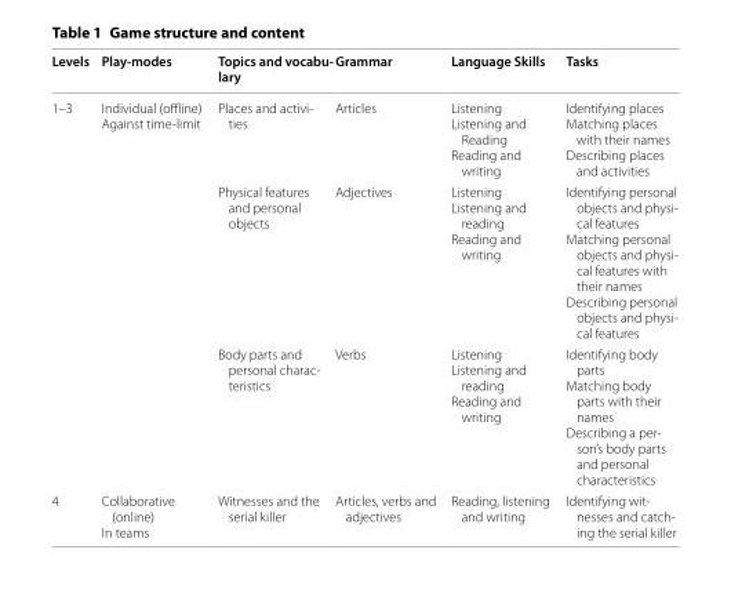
<table><thead><tr><td>Levels</td><td>Play-modes</td><td>Topics and vocabu- lary</td><td>Grammar</td><td>Language Skills</td><td>Tasks</td></tr></thead><tbody><tr><td rowspan="3">1–3</td><td>Individual (offline) Against time‑limit</td><td>Places and activi‑ ties</td><td>Articles</td><td>Listening Listening and Reading Reading and writing</td><td>Identifying places Matching places with their names Describing places and activities</td></tr><tr><td></td><td>Physical features and personal objects</td><td>Adjectives</td><td>Listening Listening and reading Reading and writing</td><td>Identifying personal objects and physi‑ cal features Matching personal objects and physi‑ cal features with their names Describing personal objects and physi‑ cal features</td></tr><tr><td></td><td>Body parts and personal charac‑ teristics</td><td>Verbs</td><td>Listening Listening and reading Reading and writing</td><td>Identifying body parts Matching body parts with their names Describing a per‑ son’s body parts and personal characteristics</td></tr><tr><td>4</td><td>Collaborative (online) In teams</td><td>Witnesses and the serial killer</td><td>Articles, verbs and adjectives</td><td>Reading, listening and writing</td><td>Identifying wit‑ nesses and catch‑ ing the serial killer</td></tr></tbody></table>